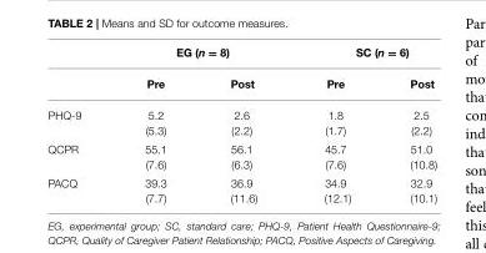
<table><thead><tr><td rowspan="2"></td><td colspan="2">EG (n = 8)</td><td colspan="2">SC (n = 6)</td></tr><tr><td>Pre</td><td>Post</td><td>Pre</td><td>Post</td></tr></thead><tbody><tr><td>PHQ-9</td><td>5.2 (5.3)</td><td>2.6 (2.2)</td><td>1.8 (1.7)</td><td>2.5 (2.2)</td></tr><tr><td>QCPR</td><td>55.1 (7.6)</td><td>56.1 (6.3)</td><td>45.7 (7.6)</td><td>51.0 (10.8)</td></tr><tr><td>PACQ</td><td>39.3 (7.7)</td><td>36.9 (11.6)</td><td>34.9 (12.1)</td><td>32.9 (10.1)</td></tr></tbody></table>